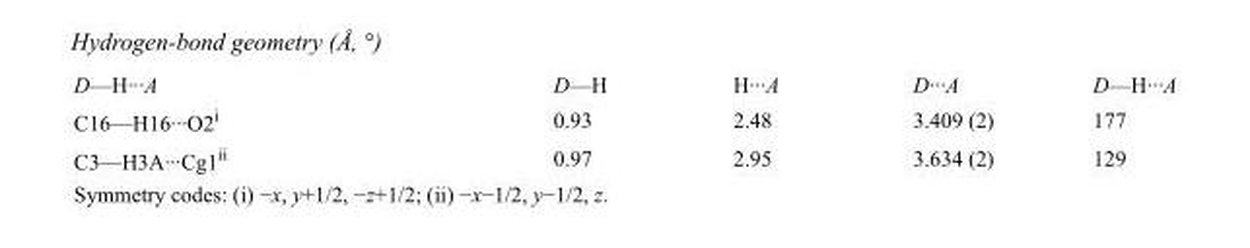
<table><tbody><tr><td>D—H···A</td><td>D—H</td><td>H···A</td><td>D···A</td><td>D—H···A</td></tr><tr><td>C16—H16···O2<sup>i</sup></td><td>0.93</td><td>2.48</td><td>3.409 (2)</td><td>177</td></tr><tr><td>C3—H3A···Cg1<sup>ii</sup></td><td>0.97</td><td>2.95</td><td>3.634 (2)</td><td>129</td></tr></tbody></table>